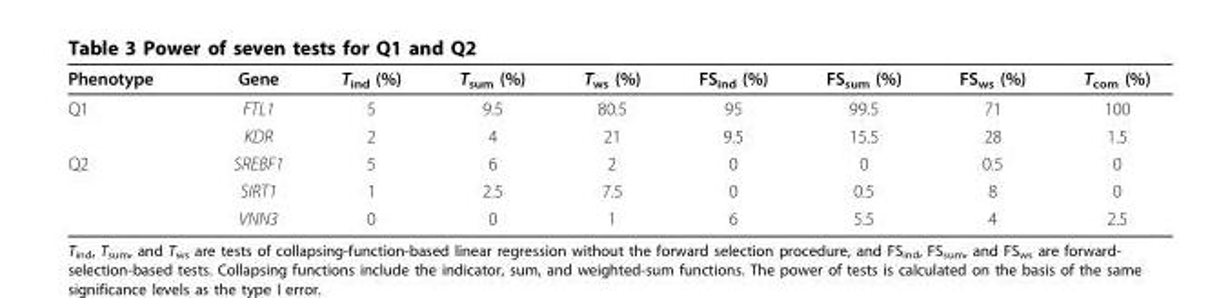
<table><thead><tr><td>Phenotype</td><td>Gene</td><td>T<sub>ind</sub> (%)</td><td>T<sub>sum</sub> (%)</td><td>T<sub>ws</sub> (%)</td><td>FS<sub>ind</sub> (%)</td><td>FS<sub>sum</sub> (%)</td><td>FS<sub>ws</sub> (%)</td><td>T<sub>com</sub> (%)</td></tr></thead><tbody><tr><td rowspan="2">Q1</td><td>FTL1</td><td>5</td><td>9.5</td><td>80.5</td><td>95</td><td>99.5</td><td>71</td><td>100</td></tr><tr><td>KDR</td><td>2</td><td>4</td><td>21</td><td>9.5</td><td>15.5</td><td>28</td><td>1.5</td></tr><tr><td rowspan="3">Q2</td><td>SREBF1</td><td>5</td><td>6</td><td>2</td><td>0</td><td>0</td><td>0.5</td><td>0</td></tr><tr><td>SIRT1</td><td>1</td><td>2.5</td><td>7.5</td><td>0</td><td>0.5</td><td>8</td><td>0</td></tr><tr><td>VNN3</td><td>0</td><td>0</td><td>1</td><td>6</td><td>5.5</td><td>4</td><td>2.5</td></tr></tbody></table>